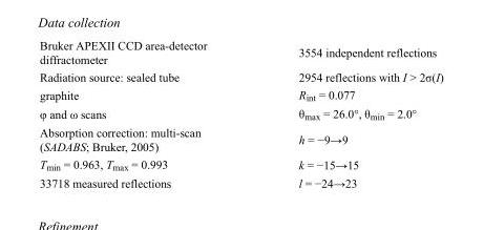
<table><tbody><tr><td>Bruker APEXII CCD area-detector diffractometer</td><td>3554 independent reflections</td></tr><tr><td>Radiation source: sealed tube</td><td>2954 reflections with I &gt; 2σ(I)</td></tr><tr><td>graphite</td><td>R<sub>int</sub> = 0.077</td></tr><tr><td>φ and ω scans</td><td>θ<sub>max</sub> = 26.0°, θ<sub>min</sub> = 2.0°</td></tr><tr><td>Absorption correction: multi-scan (SADABS; Bruker, 2005)</td><td>h = −9→9</td></tr><tr><td>T<sub>min</sub> = 0.963, T<sub>max</sub> = 0.993</td><td>k = −15→15</td></tr><tr><td>33718 measured reflections</td><td>l = −24→23</td></tr></tbody></table>